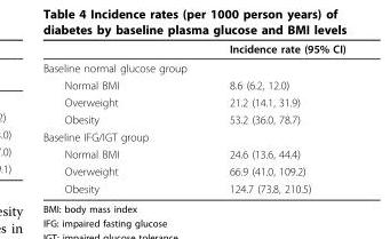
<table><thead><tr><td></td><td>Incidence rate (95% CI)</td></tr></thead><tbody><tr><td colspan="2">Baseline normal glucose group</td></tr><tr><td>Normal BMI</td><td>8.6 (6.2, 12.0)</td></tr><tr><td>Overweight</td><td>21.2 (14.1, 31.9)</td></tr><tr><td>Obesity</td><td>53.2 (36.0, 78.7)</td></tr><tr><td colspan="2">Baseline IFG/IGT group</td></tr><tr><td>Normal BMI</td><td>24.6 (13.6, 44.4)</td></tr><tr><td>Overweight</td><td>66.9 (41.0, 109.2)</td></tr><tr><td>Obesity</td><td>124.7 (73.8, 210.5)</td></tr></tbody></table>